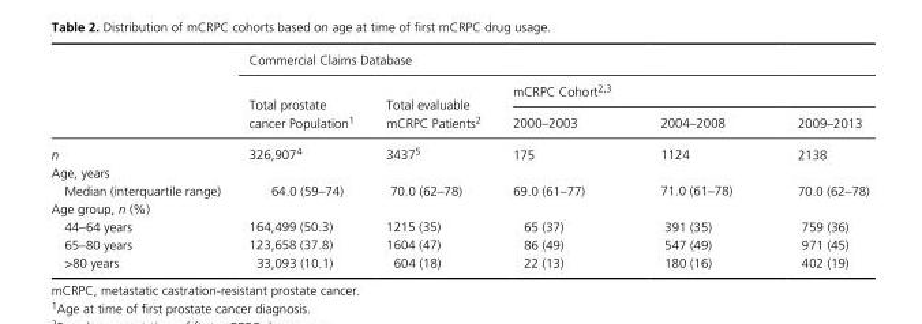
<table><thead><tr><td rowspan="3"></td><td colspan="5">Commercial Claims Database</td></tr><tr><td rowspan="2">Total prostate cancer Population1</td><td rowspan="2">Total evaluable mCRPC Patients2</td><td colspan="3">mCRPC Cohort2,3</td></tr><tr><td>2000–2003</td><td>2004–2008</td><td>2009–2013</td></tr></thead><tbody><tr><td>n</td><td>326,9074</td><td>34375</td><td>175</td><td>1124</td><td>2138</td></tr><tr><td colspan="6">Age, years</td></tr><tr><td>Median (interquartile range)</td><td>64.0 (59–74)</td><td>70.0 (62–78)</td><td>69.0 (61–77)</td><td>71.0 (61–78)</td><td>70.0 (62–78)</td></tr><tr><td colspan="6">Age group, n (%)</td></tr><tr><td>44–64 years</td><td>164,499 (50.3)</td><td>1215 (35)</td><td>65 (37)</td><td>391 (35)</td><td>759 (36)</td></tr><tr><td>65–80 years</td><td>123,658 (37.8)</td><td>1604 (47)</td><td>86 (49)</td><td>547 (49)</td><td>971 (45)</td></tr><tr><td>&gt;80 years</td><td>33,093 (10.1)</td><td>604 (18)</td><td>22 (13)</td><td>180 (16)</td><td>402 (19)</td></tr></tbody></table>